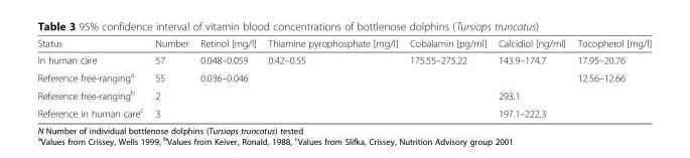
<table><thead><tr><td>Status</td><td>Number</td><td>Retinol [mg/l]</td><td>Thiamine pyrophosphate [mg/l]</td><td>Cobalamin [pg/ml]</td><td>Calcidiol [ng/ml]</td><td>Tocopherol [mg/l]</td></tr></thead><tbody><tr><td>In human care</td><td>57</td><td>0.048–0.059</td><td>0.42–0.55</td><td>175.55–275.22</td><td>143.9–174.7</td><td>17.95–20.76</td></tr><tr><td>Reference free-ranging<sup>a</sup></td><td>55</td><td>0.036–0.046</td><td></td><td></td><td></td><td>12.56–12.66</td></tr><tr><td>Reference free-ranging<sup>b</sup></td><td>2</td><td></td><td></td><td></td><td>293.1</td><td></td></tr><tr><td>Reference in human care<sup>c</sup></td><td>3</td><td></td><td></td><td></td><td>197.1–222.3</td><td></td></tr></tbody></table>